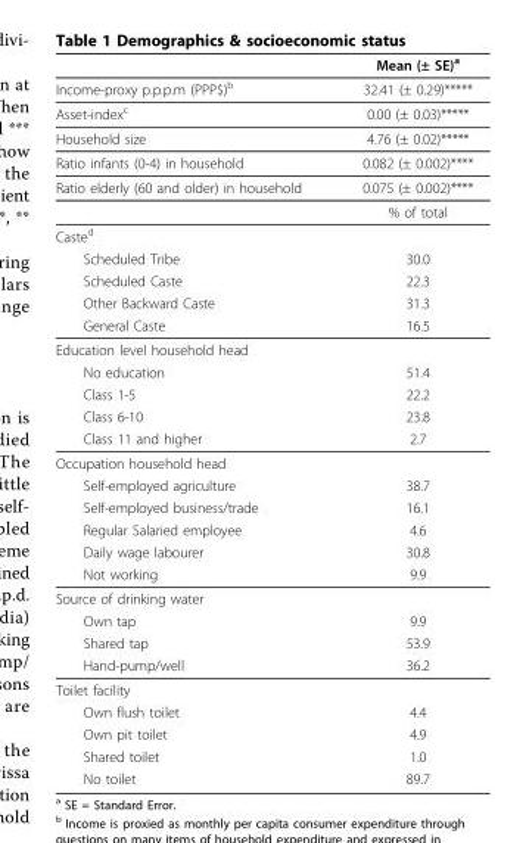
<table><thead><tr><td></td><td>Mean (± SE)<sup>a</sup></td></tr></thead><tbody><tr><td>Income-proxy p.p.p.m (PPP$)<sup>b</sup></td><td>32.41 (± 0.29)*****</td></tr><tr><td>Asset-index<sup>c</sup></td><td>0.00 (± 0.03)*****</td></tr><tr><td>Household size</td><td>4.76 (± 0.02)*****</td></tr><tr><td>Ratio infants (0-4) in household</td><td>0.082 (± 0.002)****</td></tr><tr><td rowspan="2">Ratio elderly (60 and older) in household</td><td>0.075 (± 0.002)****</td></tr><tr><td>% of total</td></tr><tr><td colspan="2">Caste<sup>d</sup></td></tr><tr><td>Scheduled Tribe</td><td>30.0</td></tr><tr><td>Scheduled Caste</td><td>22.3</td></tr><tr><td>Other Backward Caste</td><td>31.3</td></tr><tr><td>General Caste</td><td>16.5</td></tr><tr><td colspan="2">Education level household head</td></tr><tr><td>No education</td><td>51.4</td></tr><tr><td>Class 1-5</td><td>22.2</td></tr><tr><td>Class 6-10</td><td>23.8</td></tr><tr><td>Class 11 and higher</td><td>2.7</td></tr><tr><td colspan="2">Occupation household head</td></tr><tr><td>Self-employed agriculture</td><td>38.7</td></tr><tr><td>Self-employed business/trade</td><td>16.1</td></tr><tr><td>Regular Salaried employee</td><td>4.6</td></tr><tr><td>Daily wage labourer</td><td>30.8</td></tr><tr><td>Not working</td><td>9.9</td></tr><tr><td colspan="2">Source of drinking water</td></tr><tr><td>Own tap</td><td>9.9</td></tr><tr><td>Shared tap</td><td>53.9</td></tr><tr><td>Hand-pump/well</td><td>36.2</td></tr><tr><td colspan="2">Toilet facility</td></tr><tr><td>Own flush toilet</td><td>4.4</td></tr><tr><td>Own pit toilet</td><td>4.9</td></tr><tr><td>Shared toilet</td><td>1.0</td></tr><tr><td>No toilet</td><td>89.7</td></tr></tbody></table>